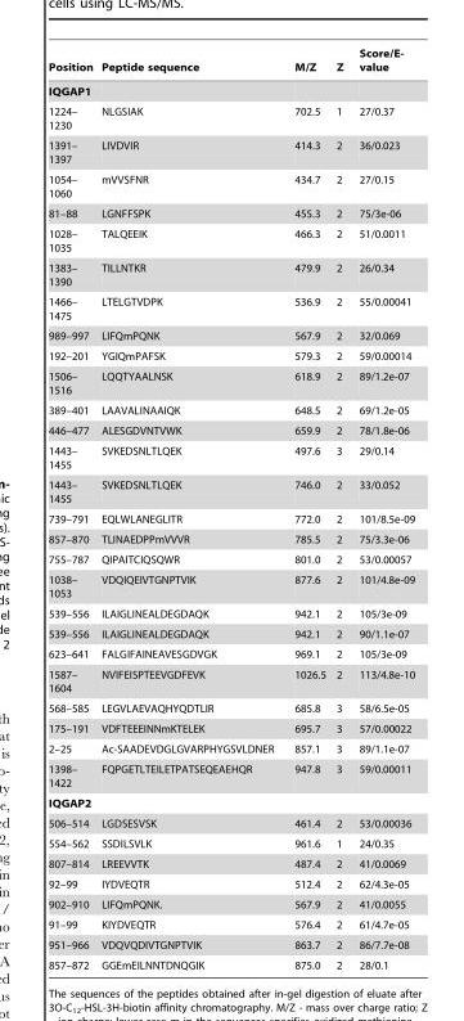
<table><thead><tr><td>Position</td><td>Peptide sequence</td><td>M/Z</td><td>Z</td><td>Score/E- value</td></tr></thead><tbody><tr><td colspan="5">IQGAP1</td></tr><tr><td>1224– 1230</td><td>NLGSIAK</td><td>702.5</td><td>1</td><td>27/0.37</td></tr><tr><td>1391– 1397</td><td>LIVDVIR</td><td>414.3</td><td>2</td><td>36/0.023</td></tr><tr><td>1054– 1060</td><td>mVVSFNR</td><td>434.7</td><td>2</td><td>27/0.15</td></tr><tr><td>81–88</td><td>LGNFFSPK</td><td>455.3</td><td>2</td><td>75/3e-06</td></tr><tr><td>1028– 1035</td><td>TALQEEIK</td><td>466.3</td><td>2</td><td>51/0.0011</td></tr><tr><td>1383– 1390</td><td>TILLNTKR</td><td>479.9</td><td>2</td><td>26/0.34</td></tr><tr><td>1466– 1475</td><td>LTELGTVDPK</td><td>536.9</td><td>2</td><td>55/0.00041</td></tr><tr><td>989–997</td><td>LIFQmPQNK</td><td>567.9</td><td>2</td><td>32/0.069</td></tr><tr><td>192–201</td><td>YGIQmPAFSK</td><td>579.3</td><td>2</td><td>59/0.00014</td></tr><tr><td>1506– 1516</td><td>LQQTYAALNSK</td><td>618.9</td><td>2</td><td>89/1.2e-07</td></tr><tr><td>389–401</td><td>LAAVALINAAIQK</td><td>648.5</td><td>2</td><td>69/1.2e-05</td></tr><tr><td>446–477</td><td>ALESGDVNTVWK</td><td>659.9</td><td>2</td><td>78/1.8e-06</td></tr><tr><td>1443– 1455</td><td>SVKEDSNLTLQEK</td><td>497.6</td><td>3</td><td>29/0.14</td></tr><tr><td>1443– 1455</td><td>SVKEDSNLTLQEK</td><td>746.0</td><td>2</td><td>33/0.052</td></tr><tr><td>739–791</td><td>EQLWLANEGLITR</td><td>772.0</td><td>2</td><td>101/8.5e-09</td></tr><tr><td>857–870</td><td>TLINAEDPPmVVVR</td><td>785.5</td><td>2</td><td>75/3.3e-06</td></tr><tr><td>755–787</td><td>QIPAITCIQSQWR</td><td>801.0</td><td>2</td><td>53/0.00057</td></tr><tr><td>1038– 1053</td><td>VDQIQEIVTGNPTVIK</td><td>877.6</td><td>2</td><td>101/4.8e-09</td></tr><tr><td>539–556</td><td>ILAIGLINEALDEGDAQK</td><td>942.1</td><td>2</td><td>105/3e-09</td></tr><tr><td>539–556</td><td>ILAIGLINEALDEGDAQK</td><td>942.1</td><td>2</td><td>90/1.1e-07</td></tr><tr><td>623–641</td><td>FALGIFAINEAVESGDVGK</td><td>969.1</td><td>2</td><td>105/3e-09</td></tr><tr><td>1587– 1604</td><td>NVIFEISPTEEVGDFEVK</td><td>1026.5</td><td>2</td><td>113/4.8e-10</td></tr><tr><td>568–585</td><td>LEGVLAEVAQHYQDTLIR</td><td>685.8</td><td>3</td><td>58/6.5e-05</td></tr><tr><td>175–191</td><td>VDFTEEEINNmKTELEK</td><td>695.7</td><td>3</td><td>57/0.00022</td></tr><tr><td>2–25</td><td>Ac-SAADEVDGLGVARPHYGSVLDNER</td><td>857.1</td><td>3</td><td>89/1.1e-07</td></tr><tr><td>1398– 1422</td><td>FQPGETLTEILETPATSEQEAEHQR</td><td>947.8</td><td>3</td><td>59/0.00011</td></tr><tr><td colspan="5">IQGAP2</td></tr><tr><td>506–514</td><td>LGDSESVSK</td><td>461.4</td><td>2</td><td>53/0.00036</td></tr><tr><td>554–562</td><td>SSDILSVLK</td><td>961.6</td><td>1</td><td>24/0.35</td></tr><tr><td>807–814</td><td>LREEVVTK</td><td>487.4</td><td>2</td><td>41/0.0069</td></tr><tr><td>92–99</td><td>IYDVEQTR</td><td>512.4</td><td>2</td><td>62/4.3e-05</td></tr><tr><td>902–910</td><td>LIFQmPQNK.</td><td>567.9</td><td>2</td><td>41/0.0055</td></tr><tr><td>91–99</td><td>KIYDVEQTR</td><td>576.4</td><td>2</td><td>61/4.7e-05</td></tr><tr><td>951–966</td><td>VDQVQDIVTGNPTVIK</td><td>863.7</td><td>2</td><td>86/7.7e-08</td></tr><tr><td>857–872</td><td>GGEmEILNNTDNQGIK</td><td>875.0</td><td>2</td><td>28/0.1</td></tr></tbody></table>